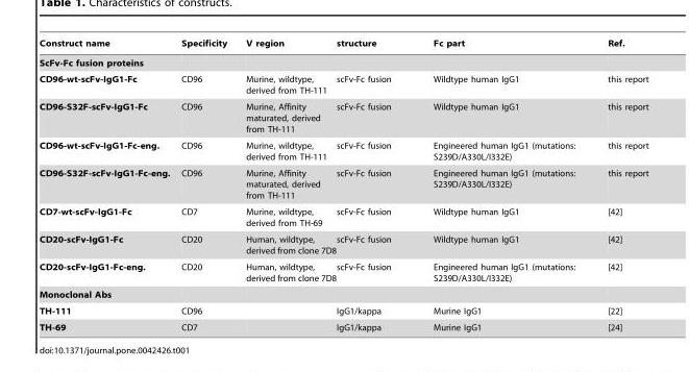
<table><thead><tr><td>Construct name</td><td>Specificity</td><td>V region</td><td>structure</td><td>Fc part</td><td>Ref.</td></tr></thead><tbody><tr><td colspan="6">ScFv-Fc fusion proteins</td></tr><tr><td>CD96-wt-scFv-IgG1-Fc</td><td>CD96</td><td>Murine, wildtype, derived from TH-111</td><td>scFv-Fc fusion</td><td>Wildtype human IgG1</td><td>this report</td></tr><tr><td>CD96-S32F-scFv-IgG1-Fc</td><td>CD96</td><td>Murine, Affinity maturated, derived from TH-111</td><td>scFv-Fc fusion</td><td>Wildtype human IgG1</td><td>this report</td></tr><tr><td>CD96-wt-scFv-IgG1-Fc-eng.</td><td>CD96</td><td>Murine, wildtype, derived from TH-111</td><td>scFv-Fc fusion</td><td>Engineered human IgG1 (mutations: S239D/A330L/I332E)</td><td>this report</td></tr><tr><td>CD96-S32F-scFv-IgG1-Fc-eng.</td><td>CD96</td><td>Murine, Affinity maturated, derived from TH-111</td><td>scFv-Fc fusion</td><td>Engineered human IgG1 (mutations: S239D/A330L/I332E)</td><td>this report</td></tr><tr><td>CD7-wt-scFv-IgG1-Fc</td><td>CD7</td><td>Murine, wildtype, derived from TH-69</td><td>scFv-Fc fusion</td><td>Wildtype human IgG1</td><td>[42]</td></tr><tr><td>CD20-scFv-IgG1-Fc</td><td>CD20</td><td>Human, wildtype, derived from clone 7D8</td><td>scFv-Fc fusion</td><td>Wildtype human IgG1</td><td>[42]</td></tr><tr><td>CD20-scFv-IgG1-Fc-eng.</td><td>CD20</td><td>Human, wildtype, derived from clone 7D8</td><td>scFv-Fc fusion</td><td>Engineered human IgG1 (mutations: S239D/A330L/I332E)</td><td>[42]</td></tr><tr><td colspan="6">Monoclonal Abs</td></tr><tr><td>TH-111</td><td>CD96</td><td></td><td>IgG1/kappa</td><td>Murine IgG1</td><td>[22]</td></tr><tr><td>TH-69</td><td>CD7</td><td></td><td>IgG1/kappa</td><td>Murine IgG1</td><td>[24]</td></tr></tbody></table>